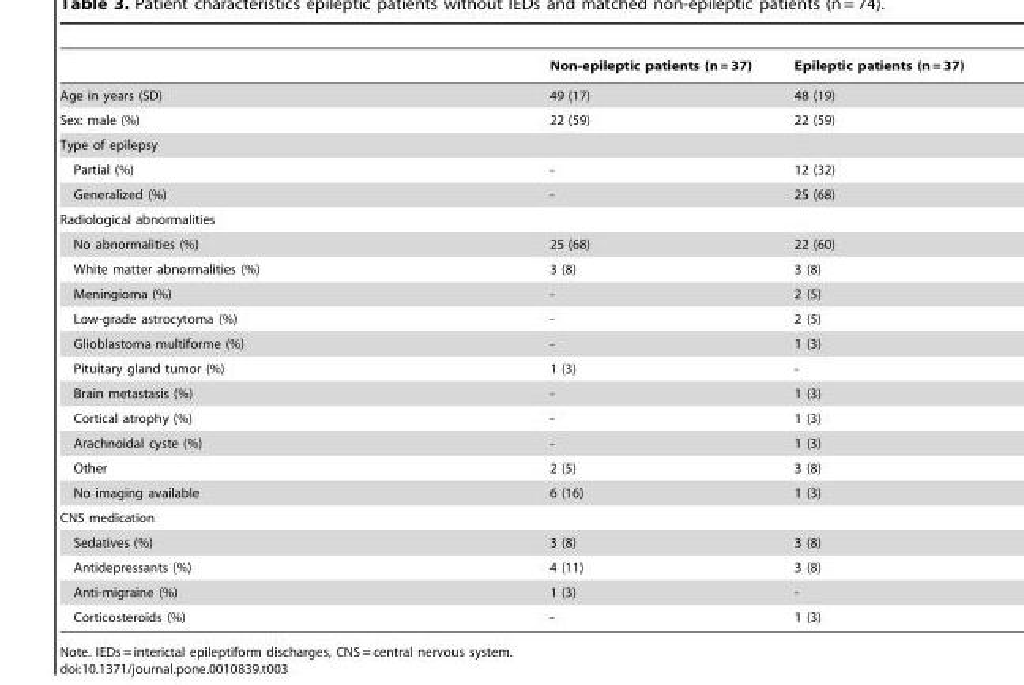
<table><thead><tr><td></td><td>Non-epileptic patients (n = 37)</td><td>Epileptic patients (n = 37)</td></tr></thead><tbody><tr><td>Age in years (SD)</td><td>49 (17)</td><td>48 (19)</td></tr><tr><td>Sex: male (%)</td><td>22 (59)</td><td>22 (59)</td></tr><tr><td colspan="3">Type of epilepsy</td></tr><tr><td>Partial (%)</td><td>-</td><td>12 (32)</td></tr><tr><td>Generalized (%)</td><td>-</td><td>25 (68)</td></tr><tr><td colspan="3">Radiological abnormalities</td></tr><tr><td>No abnormalities (%)</td><td>25 (68)</td><td>22 (60)</td></tr><tr><td>White matter abnormalities (%)</td><td>3 (8)</td><td>3 (8)</td></tr><tr><td>Meningioma (%)</td><td>-</td><td>2 (5)</td></tr><tr><td>Low-grade astrocytoma (%)</td><td>-</td><td>2 (5)</td></tr><tr><td>Glioblastoma multiforme (%)</td><td>-</td><td>1 (3)</td></tr><tr><td>Pituitary gland tumor (%)</td><td>1 (3)</td><td>-</td></tr><tr><td>Brain metastasis (%)</td><td>-</td><td>1 (3)</td></tr><tr><td>Cortical atrophy (%)</td><td>-</td><td>1 (3)</td></tr><tr><td>Arachnoidal cyste (%)</td><td>-</td><td>1 (3)</td></tr><tr><td>Other</td><td>2 (5)</td><td>3 (8)</td></tr><tr><td>No imaging available</td><td>6 (16)</td><td>1 (3)</td></tr><tr><td colspan="3">CNS medication</td></tr><tr><td>Sedatives (%)</td><td>3 (8)</td><td>3 (8)</td></tr><tr><td>Antidepressants (%)</td><td>4 (11)</td><td>3 (8)</td></tr><tr><td>Anti-migraine (%)</td><td>1 (3)</td><td>-</td></tr><tr><td>Corticosteroids (%)</td><td>-</td><td>1 (3)</td></tr></tbody></table>